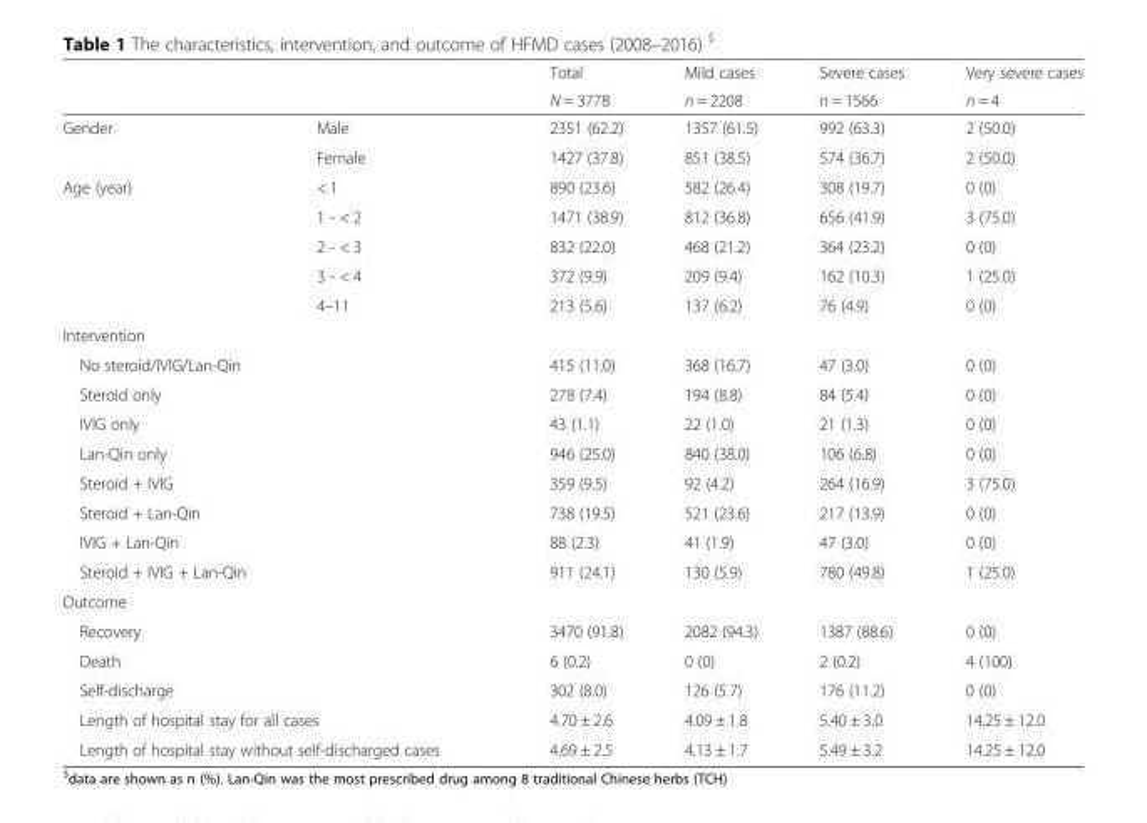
<table><thead><tr><td rowspan="2"></td><td rowspan="2"></td><td rowspan="2">Total N = 3778</td><td rowspan="2">Mild cases n = 2208</td><td rowspan="2">Severe cases n = 1566</td><td rowspan="2">Very severe cases n = 4</td></tr><tr></tr></thead><tbody><tr><td rowspan="2">Gender</td><td>Male</td><td>2351 (62.2)</td><td>1357 (61.5)</td><td>992 (63.3)</td><td>2 (50.0)</td></tr><tr><td>Female</td><td>1427 (37.8)</td><td>851 (38.5)</td><td>574 (36.7)</td><td>2 (50.0)</td></tr><tr><td rowspan="5">Age (year)</td><td>&lt; 1</td><td>890 (23.6)</td><td>582 (26.4)</td><td>308 (19.7)</td><td>0 (0)</td></tr><tr><td>1 - &lt; 2</td><td>1471 (38.9)</td><td>812 (36.8)</td><td>656 (41.9)</td><td>3 (75.0)</td></tr><tr><td>2 - &lt; 3</td><td>832 (22.0)</td><td>468 (21.2)</td><td>364 (23.2)</td><td>0 (0)</td></tr><tr><td>3 - &lt; 4</td><td>372 (9.9)</td><td>209 (9.4)</td><td>162 (10.3)</td><td>1 (25.0)</td></tr><tr><td>4–11</td><td>213 (5.6)</td><td>137 (6.2)</td><td>76 (4.9)</td><td>0 (0)</td></tr><tr><td colspan="6">Intervention</td></tr><tr><td colspan="2">No steroid/IVIG/Lan-Qin</td><td>415 (11.0)</td><td>368 (16.7)</td><td>47 (3.0)</td><td>0 (0)</td></tr><tr><td colspan="2">Steroid only</td><td>278 (7.4)</td><td>194 (8.8)</td><td>84 (5.4)</td><td>0 (0)</td></tr><tr><td colspan="2">IVIG only</td><td>43 (1.1)</td><td>22 (1.0)</td><td>21 (1.3)</td><td>0 (0)</td></tr><tr><td colspan="2">Lan-Qin only</td><td>946 (25.0)</td><td>840 (38.0)</td><td>106 (6.8)</td><td>0 (0)</td></tr><tr><td colspan="2">Steroid + IVIG</td><td>359 (9.5)</td><td>92 (4.2)</td><td>264 (16.9)</td><td>3 (75.0)</td></tr><tr><td colspan="2">Steroid + Lan-Qin</td><td>738 (19.5)</td><td>521 (23.6)</td><td>217 (13.9)</td><td>0 (0)</td></tr><tr><td colspan="2">IVIG + Lan-Qin</td><td>88 (2.3)</td><td>41 (1.9)</td><td>47 (3.0)</td><td>0 (0)</td></tr><tr><td colspan="2">Steroid + IVIG + Lan-Qin</td><td>911 (24.1)</td><td>130 (5.9)</td><td>780 (49.8)</td><td>1 (25.0)</td></tr><tr><td colspan="6">Outcome</td></tr><tr><td colspan="2">Recovery</td><td>3470 (91.8)</td><td>2082 (94.3)</td><td>1387 (88.6)</td><td>0 (0)</td></tr><tr><td colspan="2">Death</td><td>6 (0.2)</td><td>0 (0)</td><td>2 (0.2)</td><td>4 (100)</td></tr><tr><td colspan="2">Self-discharge</td><td>302 (8.0)</td><td>126 (5.7)</td><td>176 (11.2)</td><td>0 (0)</td></tr><tr><td colspan="2">Length of hospital stay for all cases</td><td>4.70 ± 2.6</td><td>4.09 ± 1.8</td><td>5.40 ± 3.0</td><td>14.25 ± 12.0</td></tr><tr><td colspan="2">Length of hospital stay without self-discharged cases</td><td>4.69 ± 2.5</td><td>4.13 ± 1.7</td><td>5.49 ± 3.2</td><td>14.25 ± 12.0</td></tr></tbody></table>